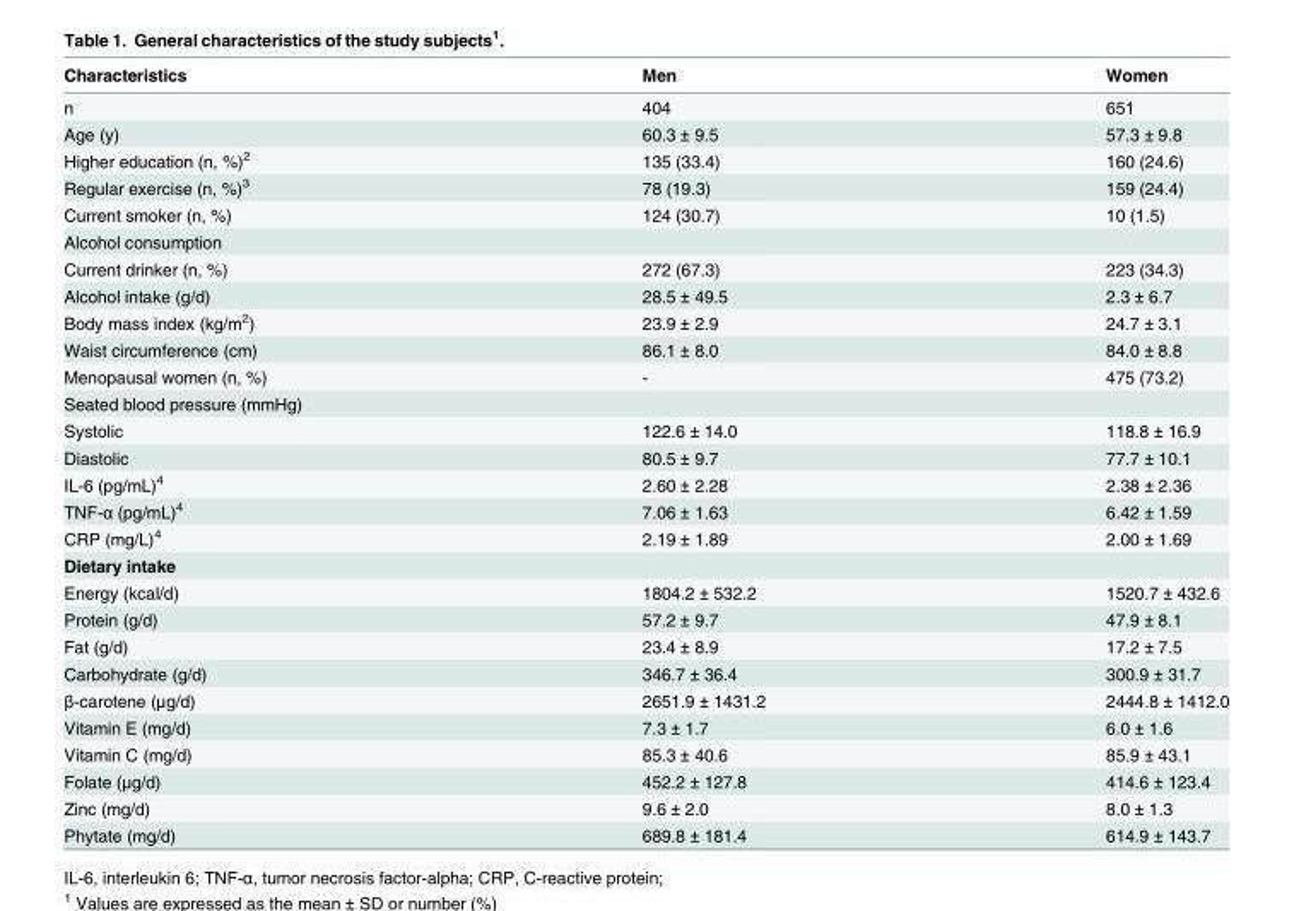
<table><thead><tr><td>Characteristics</td><td>Men</td><td>Women</td></tr></thead><tbody><tr><td>n</td><td>404</td><td>651</td></tr><tr><td>Age (y)</td><td>60.3 ± 9.5</td><td>57.3 ± 9.8</td></tr><tr><td>Higher education (n, %)<sup>2</sup></td><td>135 (33.4)</td><td>160 (24.6)</td></tr><tr><td>Regular exercise (n, %)<sup>3</sup></td><td>78 (19.3)</td><td>159 (24.4)</td></tr><tr><td>Current smoker (n, %)</td><td>124 (30.7)</td><td>10 (1.5)</td></tr><tr><td colspan="3">Alcohol consumption</td></tr><tr><td>Current drinker (n, %)</td><td>272 (67.3)</td><td>223 (34.3)</td></tr><tr><td>Alcohol intake (g/d)</td><td>28.5 ± 49.5</td><td>2.3 ± 6.7</td></tr><tr><td>Body mass index (kg/m<sup>2</sup>)</td><td>23.9 ± 2.9</td><td>24.7 ± 3.1</td></tr><tr><td>Waist circumference (cm)</td><td>86.1 ± 8.0</td><td>84.0 ± 8.8</td></tr><tr><td>Menopausal women (n, %)</td><td>-</td><td>475 (73.2)</td></tr><tr><td colspan="3">Seated blood pressure (mmHg)</td></tr><tr><td>Systolic</td><td>122.6 ± 14.0</td><td>118.8 ± 16.9</td></tr><tr><td>Diastolic</td><td>80.5 ± 9.7</td><td>77.7 ± 10.1</td></tr><tr><td>IL-6 (pg/mL)<sup>4</sup></td><td>2.60 ± 2.28</td><td>2.38 ± 2.36</td></tr><tr><td>TNF-α (pg/mL)<sup>4</sup></td><td>7.06 ± 1.63</td><td>6.42 ± 1.59</td></tr><tr><td>CRP (mg/L)<sup>4</sup></td><td>2.19 ± 1.89</td><td>2.00 ± 1.69</td></tr><tr><td colspan="3">Dietary intake</td></tr><tr><td>Energy (kcal/d)</td><td>1804.2 ± 532.2</td><td>1520.7 ± 432.6</td></tr><tr><td>Protein (g/d)</td><td>57.2 ± 9.7</td><td>47.9 ± 8.1</td></tr><tr><td>Fat (g/d)</td><td>23.4 ± 8.9</td><td>17.2 ± 7.5</td></tr><tr><td>Carbohydrate (g/d)</td><td>346.7 ± 36.4</td><td>300.9 ± 31.7</td></tr><tr><td>β-carotene (μg/d)</td><td>2651.9 ± 1431.2</td><td>2444.8 ± 1412.0</td></tr><tr><td>Vitamin E (mg/d)</td><td>7.3 ± 1.7</td><td>6.0 ± 1.6</td></tr><tr><td>Vitamin C (mg/d)</td><td>85.3 ± 40.6</td><td>85.9 ± 43.1</td></tr><tr><td>Folate (μg/d)</td><td>452.2 ± 127.8</td><td>414.6 ± 123.4</td></tr><tr><td>Zinc (mg/d)</td><td>9.6 ± 2.0</td><td>8.0 ± 1.3</td></tr><tr><td>Phytate (mg/d)</td><td>689.8 ± 181.4</td><td>614.9 ± 143.7</td></tr></tbody></table>